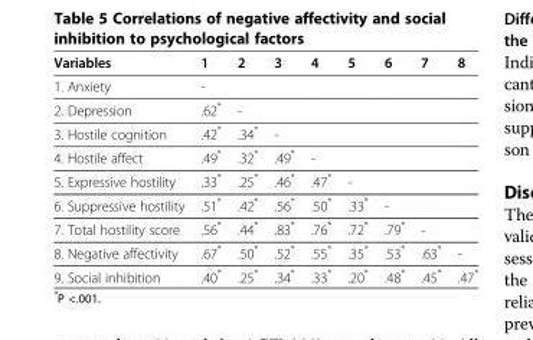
<table><thead><tr><td>Variables</td><td>1</td><td>2</td><td>3</td><td>4</td><td>5</td><td>6</td><td>7</td><td>8</td></tr></thead><tbody><tr><td>1. Anxiety</td><td>-</td><td></td><td></td><td></td><td></td><td></td><td></td><td></td></tr><tr><td>2. Depression</td><td>.62*</td><td>-</td><td></td><td></td><td></td><td></td><td></td><td></td></tr><tr><td>3. Hostile cognition</td><td>.42*</td><td>.34*</td><td>-</td><td></td><td></td><td></td><td></td><td></td></tr><tr><td>4. Hostile affect</td><td>.49*</td><td>.32*</td><td>.49*</td><td>-</td><td></td><td></td><td></td><td></td></tr><tr><td>5. Expressive hostility</td><td>.33*</td><td>.25*</td><td>.46*</td><td>.47*</td><td>-</td><td></td><td></td><td></td></tr><tr><td>6. Suppressive hostility</td><td>.51*</td><td>.42*</td><td>.56*</td><td>.50*</td><td>.33*</td><td>-</td><td></td><td></td></tr><tr><td>7. Total hostility score</td><td>.56*</td><td>.44*</td><td>.83*</td><td>.76*</td><td>.72*</td><td>.79*</td><td>-</td><td></td></tr><tr><td>8. Negative affectivity</td><td>.67*</td><td>.50*</td><td>.52*</td><td>.55*</td><td>.35*</td><td>.53*</td><td>.63*</td><td>-</td></tr><tr><td>9. Social inhibition</td><td>.40*</td><td>.25*</td><td>.34*</td><td>.33*</td><td>.20*</td><td>.48*</td><td>.45*</td><td>.47*</td></tr></tbody></table>